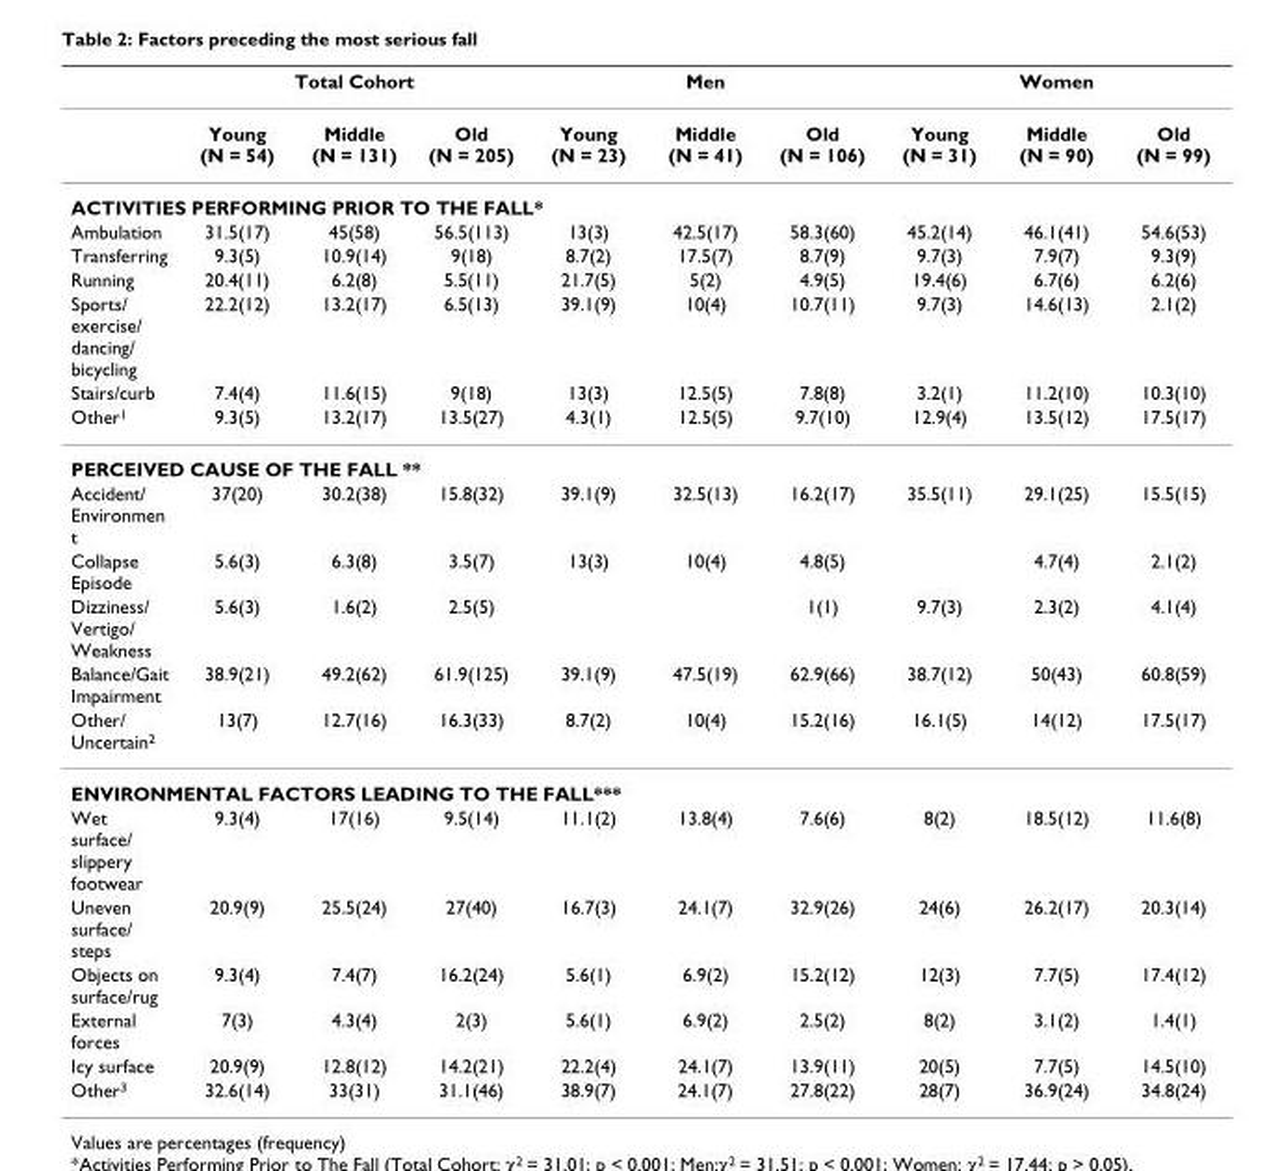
<table><thead><tr><td rowspan="2"></td><td colspan="3">Total Cohort</td><td colspan="3">Men</td><td colspan="3">Women</td></tr><tr><td>Young (N = 54)</td><td>Middle (N = 131)</td><td>Old (N = 205)</td><td>Young (N = 23)</td><td>Middle (N = 41)</td><td>Old (N = 106)</td><td>Young (N = 31)</td><td>Middle (N = 90)</td><td>Old (N = 99)</td></tr></thead><tbody><tr><td colspan="10">ACTIVITIES PERFORMING PRIOR TO THE FALL*</td></tr><tr><td>Ambulation</td><td>31.5(17)</td><td>45(58)</td><td>56.5(113)</td><td>13(3)</td><td>42.5(17)</td><td>58.3(60)</td><td>45.2(14)</td><td>46.1(41)</td><td>54.6(53)</td></tr><tr><td>Transferring</td><td>9.3(5)</td><td>10.9(14)</td><td>9(18)</td><td>8.7(2)</td><td>17.5(7)</td><td>8.7(9)</td><td>9.7(3)</td><td>7.9(7)</td><td>9.3(9)</td></tr><tr><td>Running</td><td>20.4(11)</td><td>6.2(8)</td><td>5.5(11)</td><td>21.7(5)</td><td>5(2)</td><td>4.9(5)</td><td>19.4(6)</td><td>6.7(6)</td><td>6.2(6)</td></tr><tr><td>Sports/ exercise/ dancing/ bicycling</td><td>22.2(12)</td><td>13.2(17)</td><td>6.5(13)</td><td>39.1(9)</td><td>10(4)</td><td>10.7(11)</td><td>9.7(3)</td><td>14.6(13)</td><td>2.1(2)</td></tr><tr><td>Stairs/curb</td><td>7.4(4)</td><td>11.6(15)</td><td>9(18)</td><td>13(3)</td><td>12.5(5)</td><td>7.8(8)</td><td>3.2(1)</td><td>11.2(10)</td><td>10.3(10)</td></tr><tr><td>Other<sup>1</sup></td><td>9.3(5)</td><td>13.2(17)</td><td>13.5(27)</td><td>4.3(1)</td><td>12.5(5)</td><td>9.7(10)</td><td>12.9(4)</td><td>13.5(12)</td><td>17.5(17)</td></tr><tr><td colspan="10">PERCEIVED CAUSE OF THE FALL **</td></tr><tr><td>Accident/ Environmen t</td><td>37(20)</td><td>30.2(38)</td><td>15.8(32)</td><td>39.1(9)</td><td>32.5(13)</td><td>16.2(17)</td><td>35.5(11)</td><td>29.1(25)</td><td>15.5(15)</td></tr><tr><td>Collapse Episode</td><td>5.6(3)</td><td>6.3(8)</td><td>3.5(7)</td><td>13(3)</td><td>10(4)</td><td>4.8(5)</td><td></td><td>4.7(4)</td><td>2.1(2)</td></tr><tr><td>Dizziness/ Vertigo/ Weakness</td><td>5.6(3)</td><td>1.6(2)</td><td>2.5(5)</td><td></td><td></td><td>1(1)</td><td>9.7(3)</td><td>2.3(2)</td><td>4.1(4)</td></tr><tr><td>Balance/Gait Impairment</td><td>38.9(21)</td><td>49.2(62)</td><td>61.9(125)</td><td>39.1(9)</td><td>47.5(19)</td><td>62.9(66)</td><td>38.7(12)</td><td>50(43)</td><td>60.8(59)</td></tr><tr><td>Other/ Uncertain<sup>2</sup></td><td>13(7)</td><td>12.7(16)</td><td>16.3(33)</td><td>8.7(2)</td><td>10(4)</td><td>15.2(16)</td><td>16.1(5)</td><td>14(12)</td><td>17.5(17)</td></tr><tr><td colspan="10">ENVIRONMENTAL FACTORS LEADING TO THE FALL***</td></tr><tr><td>Wet surface/ slippery footwear</td><td>9.3(4)</td><td>17(16)</td><td>9.5(14)</td><td>11.1(2)</td><td>13.8(4)</td><td>7.6(6)</td><td>8(2)</td><td>18.5(12)</td><td>11.6(8)</td></tr><tr><td>Uneven surface/ steps</td><td>20.9(9)</td><td>25.5(24)</td><td>27(40)</td><td>16.7(3)</td><td>24.1(7)</td><td>32.9(26)</td><td>24(6)</td><td>26.2(17)</td><td>20.3(14)</td></tr><tr><td>Objects on surface/rug</td><td>9.3(4)</td><td>7.4(7)</td><td>16.2(24)</td><td>5.6(1)</td><td>6.9(2)</td><td>15.2(12)</td><td>12(3)</td><td>7.7(5)</td><td>17.4(12)</td></tr><tr><td>External forces</td><td>7(3)</td><td>4.3(4)</td><td>2(3)</td><td>5.6(1)</td><td>6.9(2)</td><td>2.5(2)</td><td>8(2)</td><td>3.1(2)</td><td>1.4(1)</td></tr><tr><td>Icy surface</td><td>20.9(9)</td><td>12.8(12)</td><td>14.2(21)</td><td>22.2(4)</td><td>24.1(7)</td><td>13.9(11)</td><td>20(5)</td><td>7.7(5)</td><td>14.5(10)</td></tr><tr><td>Other<sup>3</sup></td><td>32.6(14)</td><td>33(31)</td><td>31.1(46)</td><td>38.9(7)</td><td>24.1(7)</td><td>27.8(22)</td><td>28(7)</td><td>36.9(24)</td><td>34.8(24)</td></tr></tbody></table>